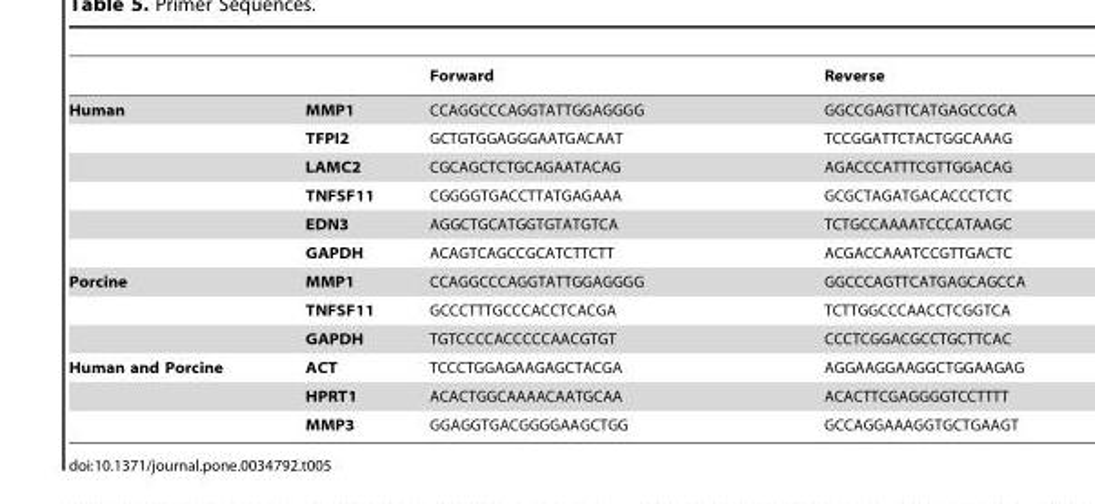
<table><thead><tr><td></td><td></td><td>Forward</td><td>Reverse</td></tr></thead><tbody><tr><td rowspan="6">Human</td><td>MMP1</td><td>CCAGGCCCAGGTATTGGAGGGG</td><td>GGCCGAGTTCATGAGCCGCA</td></tr><tr><td>TFPI2</td><td>GCTGTGGAGGGAATGACAAT</td><td>TCCGGATTCTACTGGCAAAG</td></tr><tr><td>LAMC2</td><td>CGCAGCTCTGCAGAATACAG</td><td>AGACCCATTTCGTTGGACAG</td></tr><tr><td>TNFSF11</td><td>CGGGGTGACCTTATGAGAAA</td><td>GCGCTAGATGACACCCTCTC</td></tr><tr><td>EDN3</td><td>AGGCTGCATGGTGTATGTCA</td><td>TCTGCCAAAATCCCATAAGC</td></tr><tr><td>GAPDH</td><td>ACAGTCAGCCGCATCTTCTT</td><td>ACGACCAAATCCGTTGACTC</td></tr><tr><td rowspan="3">Porcine</td><td>MMP1</td><td>CCAGGCCCAGGTATTGGAGGGG</td><td>GGCCCAGTTCATGAGCAGCCA</td></tr><tr><td>TNFSF11</td><td>GCCCTTTGCCCACCTCACGA</td><td>TCTTGGCCCAACCTCGGTCA</td></tr><tr><td>GAPDH</td><td>TGTCCCCACCCCCAACGTGT</td><td>CCCTCGGACGCCTGCTTCAC</td></tr><tr><td rowspan="3">Human and Porcine</td><td>ACT</td><td>TCCCTGGAGAAGAGCTACGA</td><td>AGGAAGGAAGGCTGGAAGAG</td></tr><tr><td>HPRT1</td><td>ACACTGGCAAAACAATGCAA</td><td>ACACTTCGAGGGGTCCTTTT</td></tr><tr><td>MMP3</td><td>GGAGGTGACGGGGAAGCTGG</td><td>GCCAGGAAAGGTGCTGAAGT</td></tr></tbody></table>